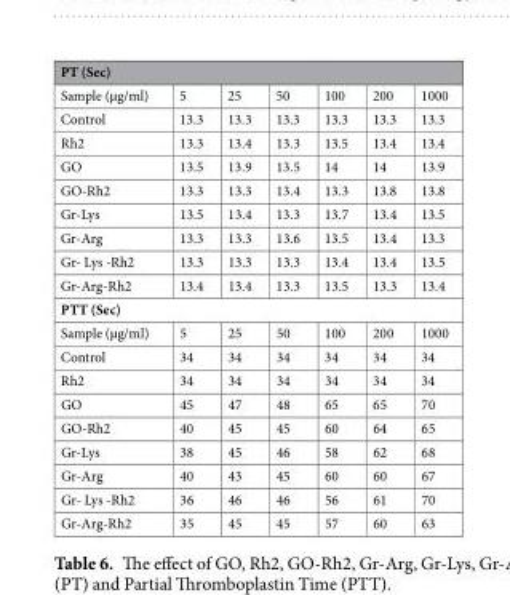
<table><thead><tr><td colspan="7">PT (Sec)</td></tr><tr><td>Sample (µg/ml)</td><td>5</td><td>25</td><td>50</td><td>100</td><td>200</td><td>1000</td></tr></thead><tbody><tr><td>Control</td><td>13.3</td><td>13.3</td><td>13.3</td><td>13.3</td><td>13.3</td><td>13.3</td></tr><tr><td>Rh2</td><td>13.3</td><td>13.4</td><td>13.3</td><td>13.5</td><td>13.4</td><td>13.4</td></tr><tr><td>GO</td><td>13.5</td><td>13.9</td><td>13.5</td><td>14</td><td>14</td><td>13.9</td></tr><tr><td>GO-Rh2</td><td>13.3</td><td>13.3</td><td>13.4</td><td>13.3</td><td>13.8</td><td>13.8</td></tr><tr><td>Gr-Lys</td><td>13.5</td><td>13.4</td><td>13.3</td><td>13.7</td><td>13.4</td><td>13.5</td></tr><tr><td>Gr-Arg</td><td>13.3</td><td>13.3</td><td>13.6</td><td>13.5</td><td>13.4</td><td>13.3</td></tr><tr><td>Gr- Lys -Rh2</td><td>13.3</td><td>13.3</td><td>13.3</td><td>13.4</td><td>13.4</td><td>13.5</td></tr><tr><td>Gr-Arg-Rh2</td><td>13.4</td><td>13.4</td><td>13.3</td><td>13.5</td><td>13.3</td><td>13.4</td></tr><tr><td colspan="7">PTT (Sec)</td></tr><tr><td>Sample (µg/ml)</td><td>5</td><td>25</td><td>50</td><td>100</td><td>200</td><td>1000</td></tr><tr><td>Control</td><td>34</td><td>34</td><td>34</td><td>34</td><td>34</td><td>34</td></tr><tr><td>Rh2</td><td>34</td><td>34</td><td>34</td><td>34</td><td>34</td><td>34</td></tr><tr><td>GO</td><td>45</td><td>47</td><td>48</td><td>65</td><td>65</td><td>70</td></tr><tr><td>GO-Rh2</td><td>40</td><td>45</td><td>45</td><td>60</td><td>64</td><td>65</td></tr><tr><td>Gr-Lys</td><td>38</td><td>45</td><td>46</td><td>58</td><td>62</td><td>68</td></tr><tr><td>Gr-Arg</td><td>40</td><td>43</td><td>45</td><td>60</td><td>60</td><td>67</td></tr><tr><td>Gr- Lys -Rh2</td><td>36</td><td>46</td><td>46</td><td>56</td><td>61</td><td>70</td></tr><tr><td>Gr-Arg-Rh2</td><td>35</td><td>45</td><td>45</td><td>57</td><td>60</td><td>63</td></tr></tbody></table>